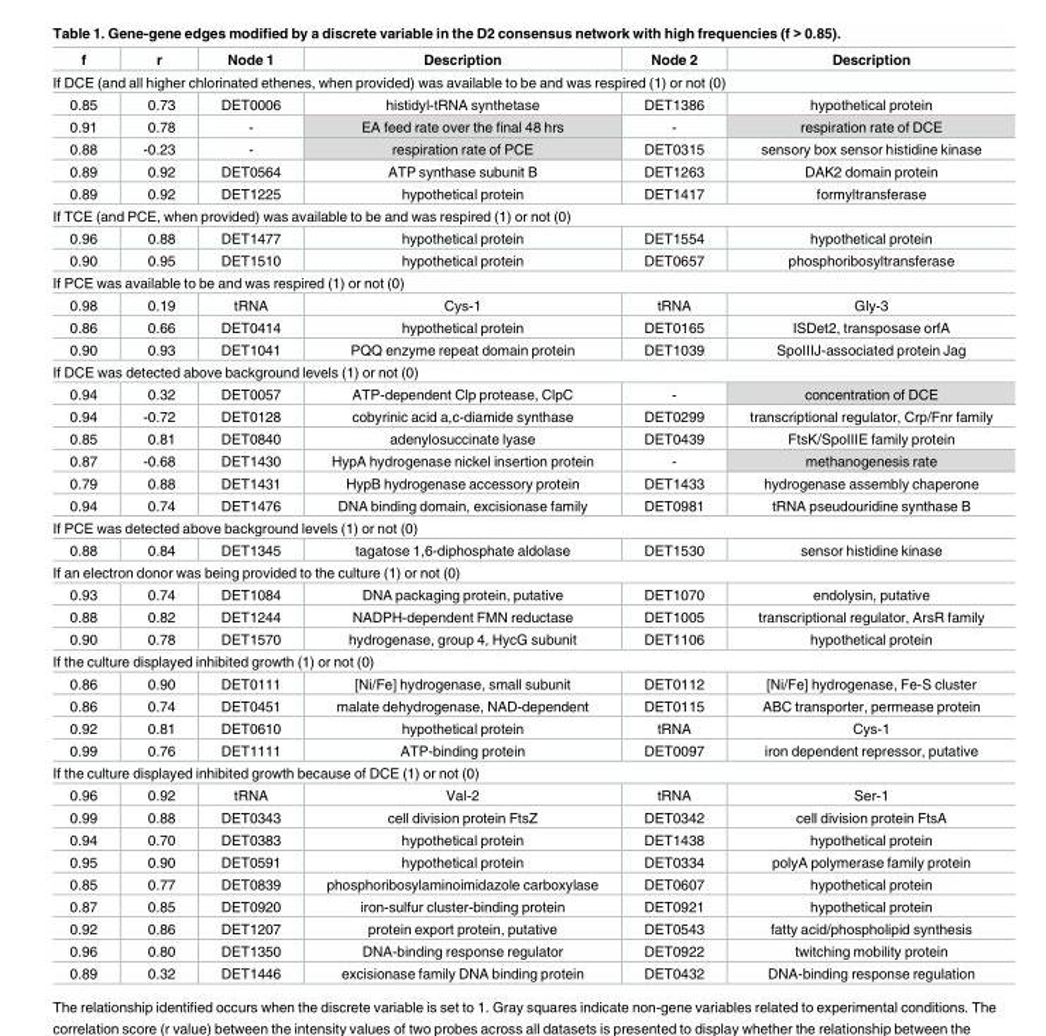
<table><thead><tr><td>f</td><td>r</td><td>Node 1</td><td>Description</td><td>Node 2</td><td>Description</td></tr></thead><tbody><tr><td colspan="6">If DCE (and all higher chlorinated ethenes, when provided) was available to be and was respired (1) or not (0)</td></tr><tr><td>0.85</td><td>0.73</td><td>DET0006</td><td>histidyl-tRNA synthetase</td><td>DET1386</td><td>hypothetical protein</td></tr><tr><td>0.91</td><td>0.78</td><td>-</td><td>EA feed rate over the final 48 hrs</td><td>-</td><td>respiration rate of DCE</td></tr><tr><td>0.88</td><td>-0.23</td><td>-</td><td>respiration rate of PCE</td><td>DET0315</td><td>sensory box sensor histidine kinase</td></tr><tr><td>0.89</td><td>0.92</td><td>DET0564</td><td>ATP synthase subunit B</td><td>DET1263</td><td>DAK2 domain protein</td></tr><tr><td>0.89</td><td>0.92</td><td>DET1225</td><td>hypothetical protein</td><td>DET1417</td><td>formyltransferase</td></tr><tr><td colspan="6">If TCE (and PCE, when provided) was available to be and was respired (1) or not (0)</td></tr><tr><td>0.96</td><td>0.88</td><td>DET1477</td><td>hypothetical protein</td><td>DET1554</td><td>hypothetical protein</td></tr><tr><td>0.90</td><td>0.95</td><td>DET1510</td><td>hypothetical protein</td><td>DET0657</td><td>phosphoribosyltransferase</td></tr><tr><td colspan="6">If PCE was available to be and was respired (1) or not (0)</td></tr><tr><td>0.98</td><td>0.19</td><td>tRNA</td><td>Cys-1</td><td>tRNA</td><td>Gly-3</td></tr><tr><td>0.86</td><td>0.66</td><td>DET0414</td><td>hypothetical protein</td><td>DET0165</td><td>ISDet2, transposase orfA</td></tr><tr><td>0.90</td><td>0.93</td><td>DET1041</td><td>PQQ enzyme repeat domain protein</td><td>DET1039</td><td>SpoIIIJ-associated protein Jag</td></tr><tr><td colspan="6">If DCE was detected above background levels (1) or not (0)</td></tr><tr><td>0.94</td><td>0.32</td><td>DET0057</td><td>ATP-dependent Clp protease, ClpC</td><td>-</td><td>concentration of DCE</td></tr><tr><td>0.94</td><td>-0.72</td><td>DET0128</td><td>cobyrinic acid a,c-diamide synthase</td><td>DET0299</td><td>transcriptional regulator, Crp/Fnr family</td></tr><tr><td>0.85</td><td>0.81</td><td>DET0840</td><td>adenylosuccinate lyase</td><td>DET0439</td><td>FtsK/SpoIIIE family protein</td></tr><tr><td>0.87</td><td>-0.68</td><td>DET1430</td><td>HypA hydrogenase nickel insertion protein</td><td>-</td><td>methanogenesis rate</td></tr><tr><td>0.79</td><td>0.88</td><td>DET1431</td><td>HypB hydrogenase accessory protein</td><td>DET1433</td><td>hydrogenase assembly chaperone</td></tr><tr><td>0.94</td><td>0.74</td><td>DET1476</td><td>DNA binding domain, excisionase family</td><td>DET0981</td><td>tRNA pseudouridine synthase B</td></tr><tr><td colspan="6">If PCE was detected above background levels (1) or not (0)</td></tr><tr><td>0.88</td><td>0.84</td><td>DET1345</td><td>tagatose 1,6-diphosphate aldolase</td><td>DET1530</td><td>sensor histidine kinase</td></tr><tr><td colspan="6">If an electron donor was being provided to the culture (1) or not (0)</td></tr><tr><td>0.93</td><td>0.74</td><td>DET1084</td><td>DNA packaging protein, putative</td><td>DET1070</td><td>endolysin, putative</td></tr><tr><td>0.88</td><td>0.82</td><td>DET1244</td><td>NADPH-dependent FMN reductase</td><td>DET1005</td><td>transcriptional regulator, ArsR family</td></tr><tr><td>0.90</td><td>0.78</td><td>DET1570</td><td>hydrogenase, group 4, HycG subunit</td><td>DET1106</td><td>hypothetical protein</td></tr><tr><td colspan="6">If the culture displayed inhibited growth (1) or not (0)</td></tr><tr><td>0.86</td><td>0.90</td><td>DET0111</td><td>[Ni/Fe] hydrogenase, small subunit</td><td>DET0112</td><td>[Ni/Fe] hydrogenase, Fe-S cluster</td></tr><tr><td>0.86</td><td>0.74</td><td>DET0451</td><td>malate dehydrogenase, NAD-dependent</td><td>DET0115</td><td>ABC transporter, permease protein</td></tr><tr><td>0.92</td><td>0.81</td><td>DET0610</td><td>hypothetical protein</td><td>tRNA</td><td>Cys-1</td></tr><tr><td>0.99</td><td>0.76</td><td>DET1111</td><td>ATP-binding protein</td><td>DET0097</td><td>iron dependent repressor, putative</td></tr><tr><td colspan="6">If the culture displayed inhibited growth because of DCE (1) or not (0)</td></tr><tr><td>0.96</td><td>0.92</td><td>tRNA</td><td>Val-2</td><td>tRNA</td><td>Ser-1</td></tr><tr><td>0.99</td><td>0.88</td><td>DET0343</td><td>cell division protein FtsZ</td><td>DET0342</td><td>cell division protein FtsA</td></tr><tr><td>0.94</td><td>0.70</td><td>DET0383</td><td>hypothetical protein</td><td>DET1438</td><td>hypothetical protein</td></tr><tr><td>0.95</td><td>0.90</td><td>DET0591</td><td>hypothetical protein</td><td>DET0334</td><td>polyA polymerase family protein</td></tr><tr><td>0.85</td><td>0.77</td><td>DET0839</td><td>phosphoribosylaminoimidazole carboxylase</td><td>DET0607</td><td>hypothetical protein</td></tr><tr><td>0.87</td><td>0.85</td><td>DET0920</td><td>iron-sulfur cluster-binding protein</td><td>DET0921</td><td>hypothetical protein</td></tr><tr><td>0.92</td><td>0.86</td><td>DET1207</td><td>protein export protein, putative</td><td>DET0543</td><td>fatty acid/phospholipid synthesis</td></tr><tr><td>0.96</td><td>0.80</td><td>DET1350</td><td>DNA-binding response regulator</td><td>DET0922</td><td>twitching mobility protein</td></tr><tr><td>0.89</td><td>0.32</td><td>DET1446</td><td>excisionase family DNA binding protein</td><td>DET0432</td><td>DNA-binding response regulation</td></tr></tbody></table>